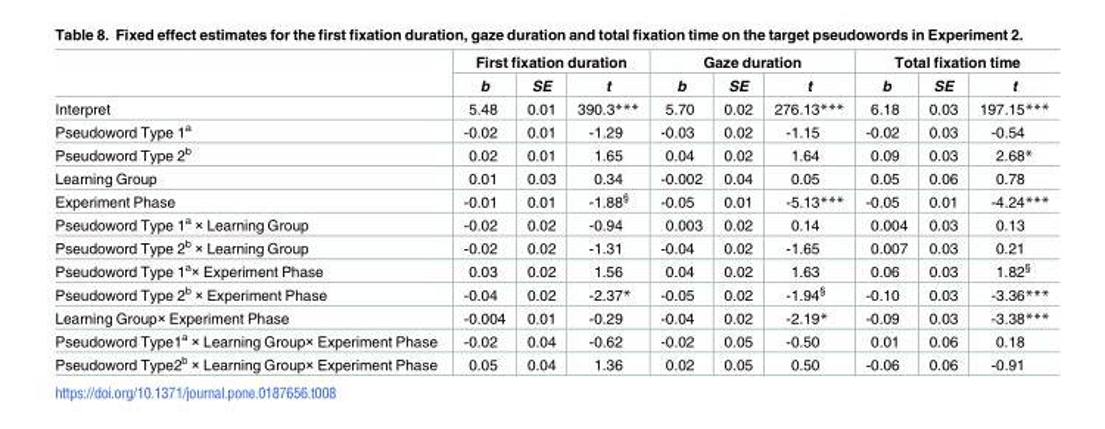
<table><thead><tr><td rowspan="2"></td><td colspan="3">First fixation duration</td><td colspan="3">Gaze duration</td><td colspan="3">Total fixation time</td></tr><tr><td>b</td><td>SE</td><td>t</td><td>b</td><td>SE</td><td>t</td><td>b</td><td>SE</td><td>t</td></tr></thead><tbody><tr><td>Interpret</td><td>5.48</td><td>0.01</td><td>390.3***</td><td>5.70</td><td>0.02</td><td>276.13***</td><td>6.18</td><td>0.03</td><td>197.15***</td></tr><tr><td>Pseudoword Type 1<sup>a</sup></td><td>-0.02</td><td>0.01</td><td>-1.29</td><td>-0.03</td><td>0.02</td><td>-1.15</td><td>-0.02</td><td>0.03</td><td>-0.54</td></tr><tr><td>Pseudoword Type 2<sup>b</sup></td><td>0.02</td><td>0.01</td><td>1.65</td><td>0.04</td><td>0.02</td><td>1.64</td><td>0.09</td><td>0.03</td><td>2.68*</td></tr><tr><td>Learning Group</td><td>0.01</td><td>0.03</td><td>0.34</td><td>-0.002</td><td>0.04</td><td>0.05</td><td>0.05</td><td>0.06</td><td>0.78</td></tr><tr><td>Experiment Phase</td><td>-0.01</td><td>0.01</td><td>-1.88<sup>§</sup></td><td>-0.05</td><td>0.01</td><td>-5.13***</td><td>-0.05</td><td>0.01</td><td>-4.24***</td></tr><tr><td>Pseudoword Type 1<sup>a</sup> × Learning Group</td><td>-0.02</td><td>0.02</td><td>-0.94</td><td>0.003</td><td>0.02</td><td>0.14</td><td>0.004</td><td>0.03</td><td>0.13</td></tr><tr><td>Pseudoword Type 2<sup>b</sup> × Learning Group</td><td>-0.02</td><td>0.02</td><td>-1.31</td><td>-0.04</td><td>0.02</td><td>-1.65</td><td>0.007</td><td>0.03</td><td>0.21</td></tr><tr><td>Pseudoword Type 1<sup>a</sup>× Experiment Phase</td><td>0.03</td><td>0.02</td><td>1.56</td><td>0.04</td><td>0.02</td><td>1.63</td><td>0.06</td><td>0.03</td><td>1.82<sup>§</sup></td></tr><tr><td>Pseudoword Type 2<sup>b</sup> × Experiment Phase</td><td>-0.04</td><td>0.02</td><td>-2.37*</td><td>-0.05</td><td>0.02</td><td>-1.94<sup>§</sup></td><td>-0.10</td><td>0.03</td><td>-3.36***</td></tr><tr><td>Learning Group× Experiment Phase</td><td>-0.004</td><td>0.01</td><td>-0.29</td><td>-0.04</td><td>0.02</td><td>-2.19*</td><td>-0.09</td><td>0.03</td><td>-3.38***</td></tr><tr><td>Pseudoword Type1<sup>a</sup> × Learning Group× Experiment Phase</td><td>-0.02</td><td>0.04</td><td>-0.62</td><td>-0.02</td><td>0.05</td><td>-0.50</td><td>0.01</td><td>0.06</td><td>0.18</td></tr><tr><td>Pseudoword Type2<sup>b</sup> × Learning Group× Experiment Phase</td><td>0.05</td><td>0.04</td><td>1.36</td><td>0.02</td><td>0.05</td><td>0.50</td><td>-0.06</td><td>0.06</td><td>-0.91</td></tr></tbody></table>